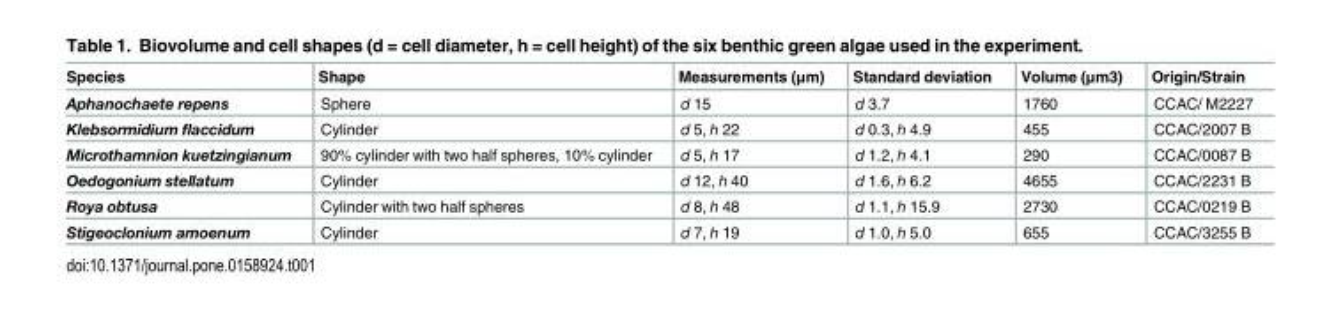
<table><thead><tr><td>Species</td><td>Shape</td><td>Measurements (μm)</td><td>Standard deviation</td><td>Volume (μm3)</td><td>Origin/Strain</td></tr></thead><tbody><tr><td>Aphanochaete repens</td><td>Sphere</td><td>d 15</td><td>d 3.7</td><td>1760</td><td>CCAC/ M2227</td></tr><tr><td>Klebsormidium flaccidum</td><td>Cylinder</td><td>d 5, h 22</td><td>d 0.3, h 4.9</td><td>455</td><td>CCAC/2007 B</td></tr><tr><td>Microthamnion kuetzingianum</td><td>90% cylinder with two half spheres, 10% cylinder</td><td>d 5, h 17</td><td>d 1.2, h 4.1</td><td>290</td><td>CCAC/0087 B</td></tr><tr><td>Oedogonium stellatum</td><td>Cylinder</td><td>d 12, h 40</td><td>d 1.6, h 6.2</td><td>4655</td><td>CCAC/2231 B</td></tr><tr><td>Roya obtusa</td><td>Cylinder with two half spheres</td><td>d 8, h 48</td><td>d 1.1, h 15.9</td><td>2730</td><td>CCAC/0219 B</td></tr><tr><td>Stigeoclonium amoenum</td><td>Cylinder</td><td>d 7, h 19</td><td>d 1.0, h 5.0</td><td>655</td><td>CCAC/3255 B</td></tr></tbody></table>